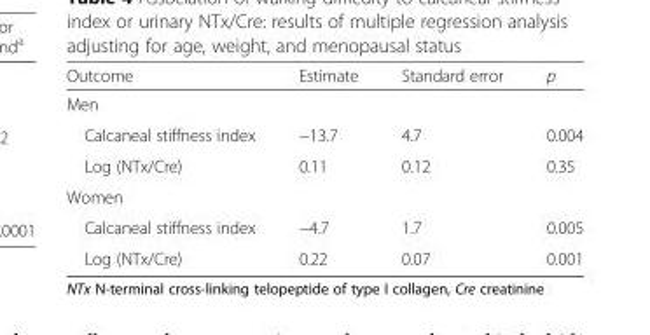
<table><thead><tr><td>Outcome</td><td>Estimate</td><td>Standard error</td><td>p</td></tr></thead><tbody><tr><td colspan="4">Men</td></tr><tr><td>Calcaneal stiffness index</td><td>−13.7</td><td>4.7</td><td>0.004</td></tr><tr><td>Log (NTx/Cre)</td><td>0.11</td><td>0.12</td><td>0.35</td></tr><tr><td colspan="4">Women</td></tr><tr><td>Calcaneal stiffness index</td><td>−4.7</td><td>1.7</td><td>0.005</td></tr><tr><td>Log (NTx/Cre)</td><td>0.22</td><td>0.07</td><td>0.001</td></tr></tbody></table>